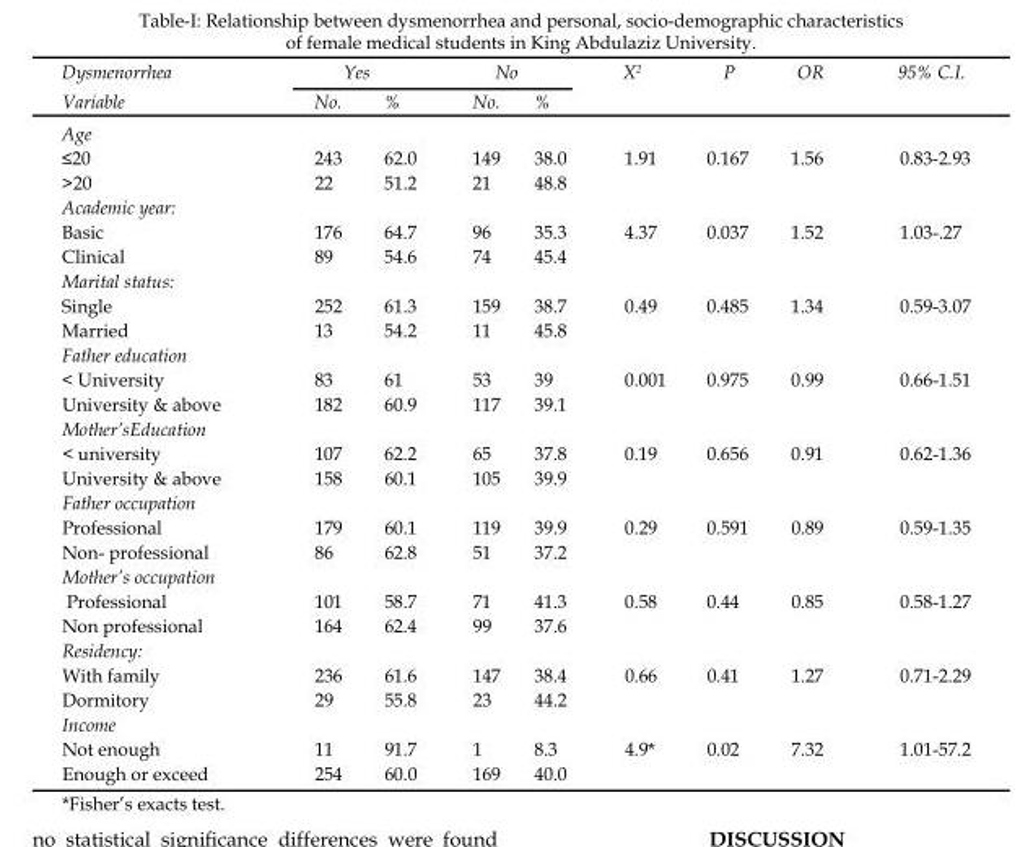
<table><thead><tr><td rowspan="2">Dysmenorrhea Variable</td><td colspan="2">Yes</td><td colspan="2">No</td><td rowspan="2">X<sup>2</sup></td><td rowspan="2">P</td><td rowspan="2">OR</td><td rowspan="2">95% C.I.</td></tr><tr><td>No.</td><td>%</td><td>No.</td><td>%</td></tr></thead><tbody><tr><td colspan="9">Age</td></tr><tr><td>≤20</td><td>243</td><td>62.0</td><td>149</td><td>38.0</td><td>1.91</td><td>0.167</td><td>1.56</td><td>0.83-2.93</td></tr><tr><td>&gt;20</td><td>22</td><td>51.2</td><td>21</td><td>48.8</td><td></td><td></td><td></td><td></td></tr><tr><td colspan="9">Academic year:</td></tr><tr><td>Basic</td><td>176</td><td>64.7</td><td>96</td><td>35.3</td><td>4.37</td><td>0.037</td><td>1.52</td><td>1.03-.27</td></tr><tr><td>Clinical</td><td>89</td><td>54.6</td><td>74</td><td>45.4</td><td></td><td></td><td></td><td></td></tr><tr><td colspan="9">Marital status:</td></tr><tr><td>Single</td><td>252</td><td>61.3</td><td>159</td><td>38.7</td><td>0.49</td><td>0.485</td><td>1.34</td><td>0.59-3.07</td></tr><tr><td>Married</td><td>13</td><td>54.2</td><td>11</td><td>45.8</td><td></td><td></td><td></td><td></td></tr><tr><td colspan="9">Father education</td></tr><tr><td>&lt; University</td><td>83</td><td>61</td><td>53</td><td>39</td><td>0.001</td><td>0.975</td><td>0.99</td><td>0.66-1.51</td></tr><tr><td>University &amp; above</td><td>182</td><td>60.9</td><td>117</td><td>39.1</td><td></td><td></td><td></td><td></td></tr><tr><td colspan="9">Mother’sEducation</td></tr><tr><td>&lt; university</td><td>107</td><td>62.2</td><td>65</td><td>37.8</td><td>0.19</td><td>0.656</td><td>0.91</td><td>0.62-1.36</td></tr><tr><td>University &amp; above</td><td>158</td><td>60.1</td><td>105</td><td>39.9</td><td></td><td></td><td></td><td></td></tr><tr><td colspan="9">Father occupation</td></tr><tr><td>Professional</td><td>179</td><td>60.1</td><td>119</td><td>39.9</td><td>0.29</td><td>0.591</td><td>0.89</td><td>0.59-1.35</td></tr><tr><td>Non- professional</td><td>86</td><td>62.8</td><td>51</td><td>37.2</td><td></td><td></td><td></td><td></td></tr><tr><td colspan="9">Mother’s occupation</td></tr><tr><td>Professional</td><td>101</td><td>58.7</td><td>71</td><td>41.3</td><td>0.58</td><td>0.44</td><td>0.85</td><td>0.58-1.27</td></tr><tr><td>Non professional</td><td>164</td><td>62.4</td><td>99</td><td>37.6</td><td></td><td></td><td></td><td></td></tr><tr><td colspan="9">Residency:</td></tr><tr><td>With family</td><td>236</td><td>61.6</td><td>147</td><td>38.4</td><td>0.66</td><td>0.41</td><td>1.27</td><td>0.71-2.29</td></tr><tr><td>Dormitory</td><td>29</td><td>55.8</td><td>23</td><td>44.2</td><td></td><td></td><td></td><td></td></tr><tr><td colspan="9">Income</td></tr><tr><td>Not enough</td><td>11</td><td>91.7</td><td>1</td><td>8.3</td><td>4.9*</td><td>0.02</td><td>7.32</td><td>1.01-57.2</td></tr><tr><td>Enough or exceed</td><td>254</td><td>60.0</td><td>169</td><td>40.0</td><td></td><td></td><td></td><td></td></tr></tbody></table>